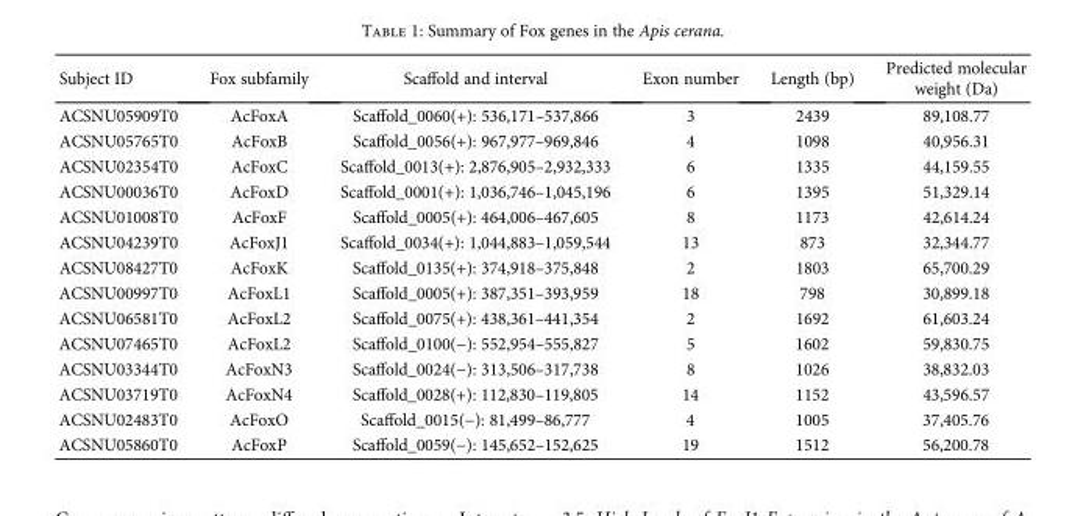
<table><thead><tr><td>Subject ID</td><td>Fox subfamily</td><td>Scaffold and interval</td><td>Exon number</td><td>Length (bp)</td><td>Predicted molecular weight (Da)</td></tr></thead><tbody><tr><td>ACSNU05909T0</td><td>AcFoxA</td><td>Scaffold_0060(+): 536,171–537,866</td><td>3</td><td>2439</td><td>89,108.77</td></tr><tr><td>ACSNU05765T0</td><td>AcFoxB</td><td>Scaffold_0056(+): 967,977–969,846</td><td>4</td><td>1098</td><td>40,956.31</td></tr><tr><td>ACSNU02354T0</td><td>AcFoxC</td><td>Scaffold_0013(+): 2,876,905–2,932,333</td><td>6</td><td>1335</td><td>44,159.55</td></tr><tr><td>ACSNU00036T0</td><td>AcFoxD</td><td>Scaffold_0001(+): 1,036,746–1,045,196</td><td>6</td><td>1395</td><td>51,329.14</td></tr><tr><td>ACSNU01008T0</td><td>AcFoxF</td><td>Scaffold_0005(+): 464,006–467,605</td><td>8</td><td>1173</td><td>42,614.24</td></tr><tr><td>ACSNU04239T0</td><td>AcFoxJ1</td><td>Scaffold_0034(+): 1,044,883–1,059,544</td><td>13</td><td>873</td><td>32,344.77</td></tr><tr><td>ACSNU08427T0</td><td>AcFoxK</td><td>Scaffold_0135(+): 374,918–375,848</td><td>2</td><td>1803</td><td>65,700.29</td></tr><tr><td>ACSNU00997T0</td><td>AcFoxL1</td><td>Scaffold_0005(+): 387,351–393,959</td><td>18</td><td>798</td><td>30,899.18</td></tr><tr><td>ACSNU06581T0</td><td>AcFoxL2</td><td>Scaffold_0075(+): 438,361–441,354</td><td>2</td><td>1692</td><td>61,603.24</td></tr><tr><td>ACSNU07465T0</td><td>AcFoxL2</td><td>Scaffold_0100(−): 552,954–555,827</td><td>5</td><td>1602</td><td>59,830.75</td></tr><tr><td>ACSNU03344T0</td><td>AcFoxN3</td><td>Scaffold_0024(−): 313,506–317,738</td><td>8</td><td>1026</td><td>38,832.03</td></tr><tr><td>ACSNU03719T0</td><td>AcFoxN4</td><td>Scaffold_0028(+): 112,830–119,805</td><td>14</td><td>1152</td><td>43,596.57</td></tr><tr><td>ACSNU02483T0</td><td>AcFoxO</td><td>Scaffold_0015(−): 81,499–86,777</td><td>4</td><td>1005</td><td>37,405.76</td></tr><tr><td>ACSNU05860T0</td><td>AcFoxP</td><td>Scaffold_0059(−): 145,652–152,625</td><td>19</td><td>1512</td><td>56,200.78</td></tr></tbody></table>